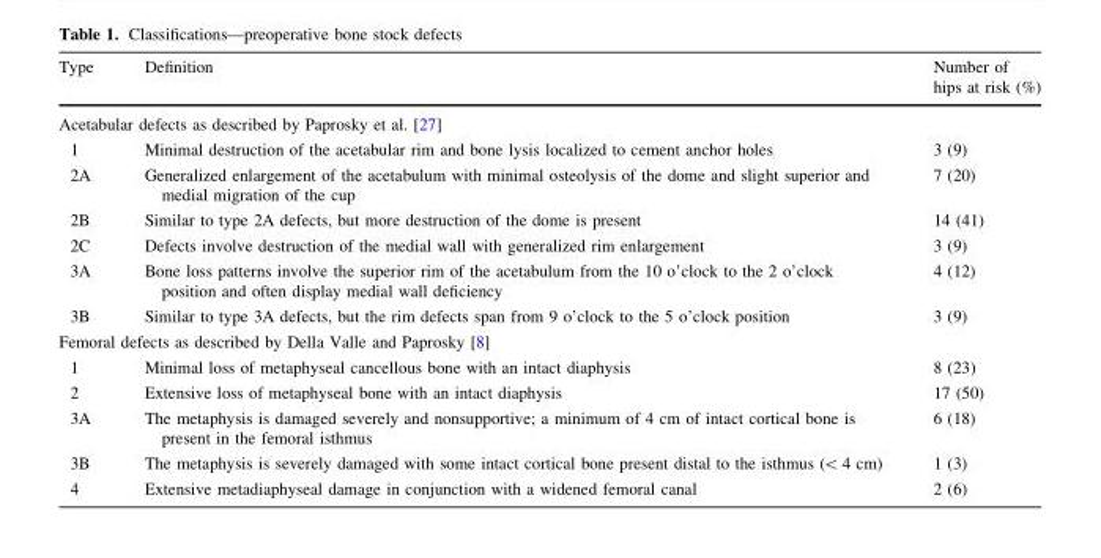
<table><thead><tr><td>Type</td><td>Definition</td><td>Number of hips at risk (%)</td></tr></thead><tbody><tr><td colspan="3">Acetabular defects as described by Paprosky et al. [27]</td></tr><tr><td>1</td><td>Minimal destruction of the acetabular rim and bone lysis localized to cement anchor holes</td><td>3 (9)</td></tr><tr><td>2A</td><td>Generalized enlargement of the acetabulum with minimal osteolysis of the dome and slight superior and medial migration of the cup</td><td>7 (20)</td></tr><tr><td>2B</td><td>Similar to type 2A defects, but more destruction of the dome is present</td><td>14 (41)</td></tr><tr><td>2C</td><td>Defects involve destruction of the medial wall with generalized rim enlargement</td><td>3 (9)</td></tr><tr><td>3A</td><td>Bone loss patterns involve the superior rim of the acetabulum from the 10 o’clock to the 2 o’clock position and often display medial wall deficiency</td><td>4 (12)</td></tr><tr><td>3B</td><td>Similar to type 3A defects, but the rim defects span from 9 o’clock to the 5 o’clock position</td><td>3 (9)</td></tr><tr><td colspan="3">Femoral defects as described by Della Valle and Paprosky [8]</td></tr><tr><td>1</td><td>Minimal loss of metaphyseal cancellous bone with an intact diaphysis</td><td>8 (23)</td></tr><tr><td>2</td><td>Extensive loss of metaphyseal bone with an intact diaphysis</td><td>17 (50)</td></tr><tr><td>3A</td><td>The metaphysis is damaged severely and nonsupportive; a minimum of 4 cm of intact cortical bone is present in the femoral isthmus</td><td>6 (18)</td></tr><tr><td>3B</td><td>The metaphysis is severely damaged with some intact cortical bone present distal to the isthmus (&lt; 4 cm)</td><td>1 (3)</td></tr><tr><td>4</td><td>Extensive metadiaphyseal damage in conjunction with a widened femoral canal</td><td>2 (6)</td></tr></tbody></table>